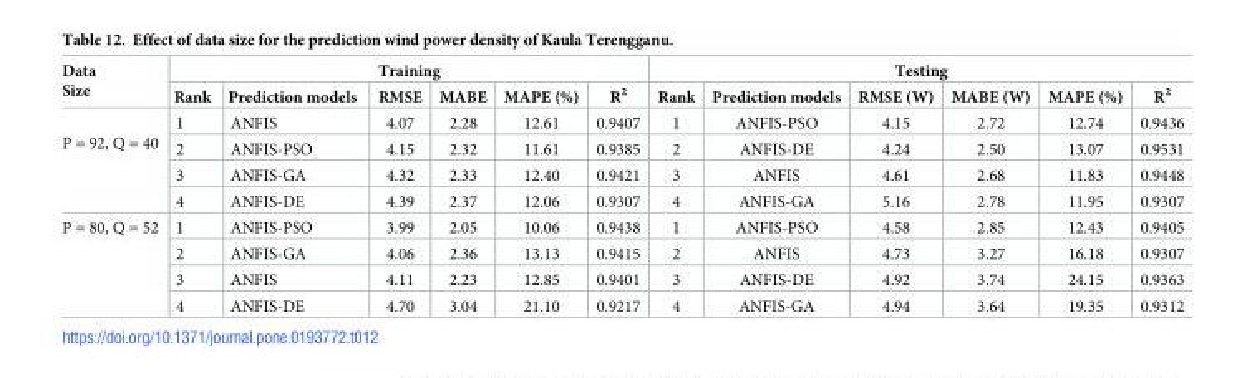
<table><thead><tr><td rowspan="2">Data Size</td><td colspan="6">Training</td><td colspan="6">Testing</td></tr><tr><td>Rank</td><td>Prediction models</td><td>RMSE</td><td>MABE</td><td>MAPE (%)</td><td>R<sup>2</sup></td><td>Rank</td><td>Prediction models</td><td>RMSE (W)</td><td>MABE (W)</td><td>MAPE (%)</td><td>R<sup>2</sup></td></tr></thead><tbody><tr><td rowspan="4">P = 92, Q = 40</td><td>1</td><td>ANFIS</td><td>4.07</td><td>2.28</td><td>12.61</td><td>0.9407</td><td>1</td><td>ANFIS-PSO</td><td>4.15</td><td>2.72</td><td>12.74</td><td>0.9436</td></tr><tr><td>2</td><td>ANFIS-PSO</td><td>4.15</td><td>2.32</td><td>11.61</td><td>0.9385</td><td>2</td><td>ANFIS-DE</td><td>4.24</td><td>2.50</td><td>13.07</td><td>0.9531</td></tr><tr><td>3</td><td>ANFIS-GA</td><td>4.32</td><td>2.33</td><td>12.40</td><td>0.9421</td><td>3</td><td>ANFIS</td><td>4.61</td><td>2.68</td><td>11.83</td><td>0.9448</td></tr><tr><td>4</td><td>ANFIS-DE</td><td>4.39</td><td>2.37</td><td>12.06</td><td>0.9307</td><td>4</td><td>ANFIS-GA</td><td>5.16</td><td>2.78</td><td>11.95</td><td>0.9307</td></tr><tr><td rowspan="4">P = 80, Q = 52</td><td>1</td><td>ANFIS-PSO</td><td>3.99</td><td>2.05</td><td>10.06</td><td>0.9438</td><td>1</td><td>ANFIS-PSO</td><td>4.58</td><td>2.85</td><td>12.43</td><td>0.9405</td></tr><tr><td>2</td><td>ANFIS-GA</td><td>4.06</td><td>2.36</td><td>13.13</td><td>0.9415</td><td>2</td><td>ANFIS</td><td>4.73</td><td>3.27</td><td>16.18</td><td>0.9307</td></tr><tr><td>3</td><td>ANFIS</td><td>4.11</td><td>2.23</td><td>12.85</td><td>0.9401</td><td>3</td><td>ANFIS-DE</td><td>4.92</td><td>3.74</td><td>24.15</td><td>0.9363</td></tr><tr><td>4</td><td>ANFIS-DE</td><td>4.70</td><td>3.04</td><td>21.10</td><td>0.9217</td><td>4</td><td>ANFIS-GA</td><td>4.94</td><td>3.64</td><td>19.35</td><td>0.9312</td></tr></tbody></table>